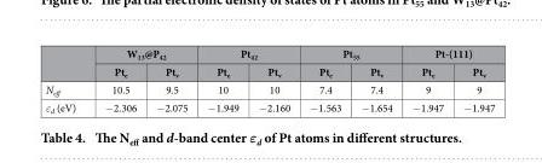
<table><thead><tr><td rowspan="2"></td><td colspan="2">W<sub>13</sub>@P<sub>42</sub></td><td colspan="2">Pt<sub>42</sub></td><td colspan="2">Pt<sub>55</sub></td><td colspan="2">Pt-(111)</td></tr><tr><td>Pt<sub>e</sub></td><td>Pt<sub>v</sub></td><td>Pt<sub>e</sub></td><td>Pt<sub>v</sub></td><td>Pt<sub>e</sub></td><td>Pt<sub>v</sub></td><td>Pt<sub>e</sub></td><td>Pt<sub>v</sub></td></tr></thead><tbody><tr><td>N<sub>eff</sub></td><td>10.5</td><td>9.5</td><td>10</td><td>10</td><td>7.4</td><td>7.4</td><td>9</td><td>9</td></tr><tr><td>ε<sub>d</sub> (eV)</td><td>− 2.306</td><td>− 2.075</td><td>− 1.949</td><td>− 2.160</td><td>− 1.563</td><td>− 1.654</td><td>− 1.947</td><td>− 1.947</td></tr></tbody></table>